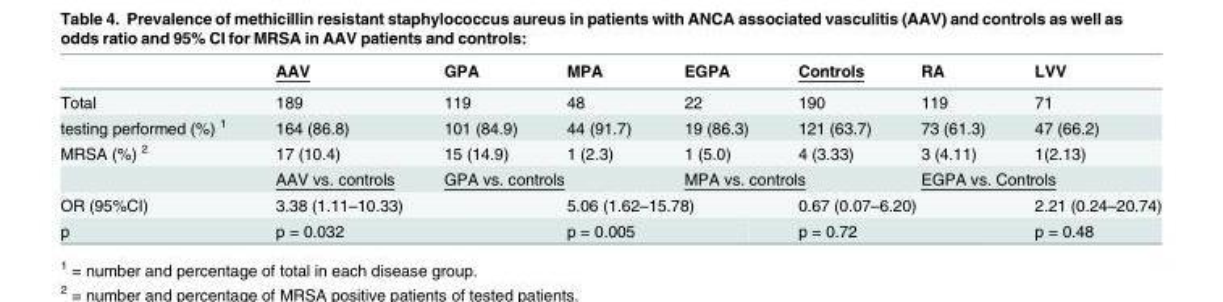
<table><thead><tr><td></td><td>AAV</td><td>GPA</td><td>MPA</td><td>EGPA</td><td>Controls</td><td>RA</td><td>LVV</td></tr></thead><tbody><tr><td>Total</td><td>189</td><td>119</td><td>48</td><td>22</td><td>190</td><td>119</td><td>71</td></tr><tr><td>testing performed (%) <sup>1</sup></td><td>164 (86.8)</td><td>101 (84.9)</td><td>44 (91.7)</td><td>19 (86.3)</td><td>121 (63.7)</td><td>73 (61.3)</td><td>47 (66.2)</td></tr><tr><td rowspan="2">MRSA (%) <sup>2</sup></td><td>17 (10.4)</td><td>15 (14.9)</td><td>1 (2.3)</td><td>1 (5.0)</td><td>4 (3.33)</td><td>3 (4.11)</td><td>1(2.13)</td></tr><tr><td>AAV vs. controls</td><td colspan="2">GPA vs. controls</td><td colspan="2">MPA vs. controls</td><td colspan="2">EGPA vs. Controls</td></tr><tr><td>OR (95%CI)</td><td colspan="2">3.38 (1.11–10.33)</td><td colspan="2">5.06 (1.62–15.78)</td><td colspan="2">0.67 (0.07–6.20)</td><td>2.21 (0.24–20.74)</td></tr><tr><td>p</td><td>p = 0.032</td><td></td><td>p = 0.005</td><td></td><td>p = 0.72</td><td></td><td>p = 0.48</td></tr></tbody></table>